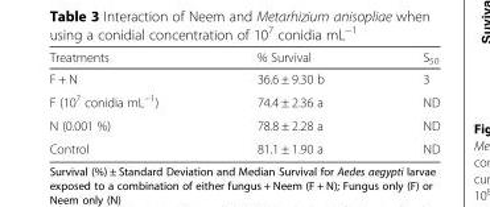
<table><thead><tr><td>Treatments</td><td>% Survival</td><td>S<sub>50</sub></td></tr></thead><tbody><tr><td>F + N</td><td>36.6 ± 9.30 b</td><td>3</td></tr><tr><td>F (10<sup>7</sup> conidia mL<sup>−1</sup>)</td><td>74.4 ± 2.36 a</td><td>ND</td></tr><tr><td>N (0.001 %)</td><td>78.8 ± 2.28 a</td><td>ND</td></tr><tr><td>Control</td><td>81.1 ± 1.90 a</td><td>ND</td></tr></tbody></table>